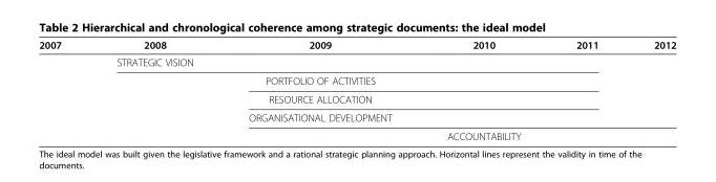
<table><thead><tr><td>2007</td><td>2008</td><td>2009</td><td>2010</td><td>2011</td><td>2012</td></tr></thead><tbody><tr><td></td><td>STRATEGIC VISION</td><td></td><td></td><td></td><td></td></tr><tr><td></td><td></td><td>PORTFOLIO OF ACTIVITIES</td><td></td><td></td><td></td></tr><tr><td></td><td></td><td>RESOURCE ALLOCATION</td><td></td><td></td><td></td></tr><tr><td></td><td></td><td>ORGANISATIONAL DEVELOPMENT</td><td></td><td></td><td></td></tr><tr><td></td><td></td><td></td><td>ACCOUNTABILITY</td><td></td><td></td></tr></tbody></table>